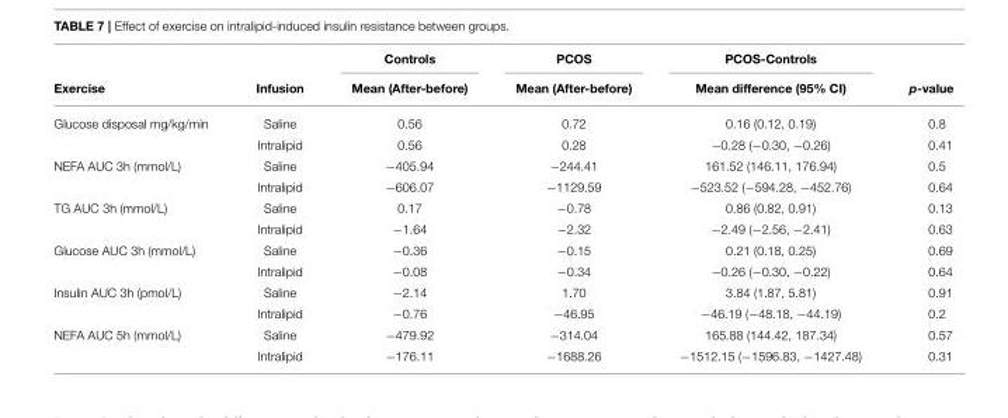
<table><thead><tr><td rowspan="2">Exercise</td><td rowspan="2">Infusion</td><td rowspan="2">Controls Mean (After-before)</td><td rowspan="2">PCOS Mean (After-before)</td><td rowspan="2">PCOS-Controls Mean difference (95% CI)</td><td rowspan="2">p-value</td></tr><tr></tr></thead><tbody><tr><td rowspan="2">Glucose disposal mg/kg/min</td><td>Saline</td><td>0.56</td><td>0.72</td><td>0.16 (0.12, 0.19)</td><td>0.8</td></tr><tr><td>Intralipid</td><td>0.56</td><td>0.28</td><td>−0.28 (−0.30, −0.26)</td><td>0.41</td></tr><tr><td rowspan="2">NEFA AUC 3h (mmol/L)</td><td>Saline</td><td>−405.94</td><td>−244.41</td><td>161.52 (146.11, 176.94)</td><td>0.5</td></tr><tr><td>Intralipid</td><td>−606.07</td><td>−1129.59</td><td>−523.52 (−594.28, −452.76)</td><td>0.64</td></tr><tr><td rowspan="2">TG AUC 3h (mmol/L)</td><td>Saline</td><td>0.17</td><td>−0.78</td><td>0.86 (0.82, 0.91)</td><td>0.13</td></tr><tr><td>Intralipid</td><td>−1.64</td><td>−2.32</td><td>−2.49 (−2.56, −2.41)</td><td>0.63</td></tr><tr><td rowspan="2">Glucose AUC 3h (mmol/L)</td><td>Saline</td><td>−0.36</td><td>−0.15</td><td>0.21 (0.18, 0.25)</td><td>0.69</td></tr><tr><td>Intralipid</td><td>−0.08</td><td>−0.34</td><td>−0.26 (−0.30, −0.22)</td><td>0.64</td></tr><tr><td rowspan="2">Insulin AUC 3h (pmol/L)</td><td>Saline</td><td>−2.14</td><td>1.70</td><td>3.84 (1.87, 5.81)</td><td>0.91</td></tr><tr><td>Intralipid</td><td>−0.76</td><td>−46.95</td><td>−46.19 (−48.18, −44.19)</td><td>0.2</td></tr><tr><td rowspan="2">NEFA AUC 5h (mmol/L)</td><td>Saline</td><td>−479.92</td><td>−314.04</td><td>165.88 (144.42, 187.34)</td><td>0.57</td></tr><tr><td>Intralipid</td><td>−176.11</td><td>−1688.26</td><td>−1512.15 (−1596.83, −1427.48)</td><td>0.31</td></tr></tbody></table>